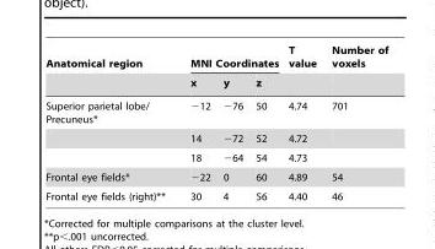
<table><thead><tr><td rowspan="2">Anatomical region</td><td colspan="3">MNI Coordinates</td><td rowspan="2">T value</td><td rowspan="2">Number of voxels</td></tr><tr><td>x</td><td>y</td><td>z</td></tr></thead><tbody><tr><td rowspan="3">Superior parietal lobe/ Precuneus*</td><td>−12</td><td>−76</td><td>50</td><td>4.74</td><td>701</td></tr><tr><td>14</td><td>−72</td><td>52</td><td>4.72</td><td></td></tr><tr><td>18</td><td>−64</td><td>54</td><td>4.73</td><td></td></tr><tr><td>Frontal eye fields*</td><td>−22</td><td>0</td><td>60</td><td>4.89</td><td>54</td></tr><tr><td>Frontal eye fields (right)**</td><td>30</td><td>4</td><td>56</td><td>4.40</td><td>46</td></tr></tbody></table>